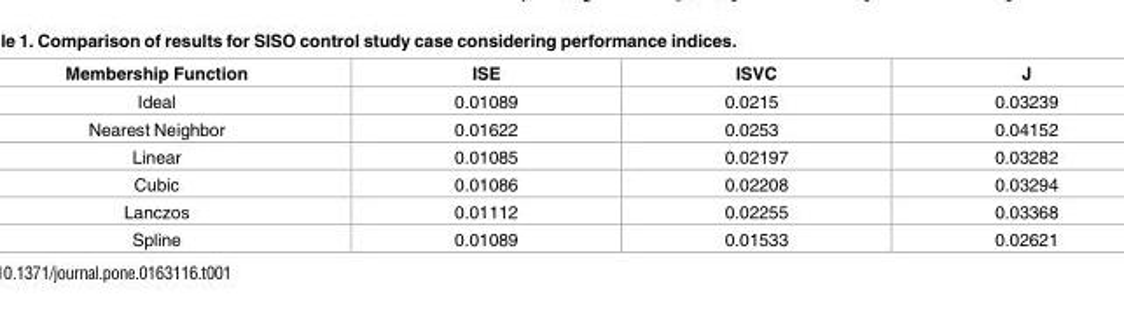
<table><thead><tr><td>Membership Function</td><td>ISE</td><td>ISVC</td><td>J</td></tr></thead><tbody><tr><td>Ideal</td><td>0.01089</td><td>0.0215</td><td>0.03239</td></tr><tr><td>Nearest Neighbor</td><td>0.01622</td><td>0.0253</td><td>0.04152</td></tr><tr><td>Linear</td><td>0.01085</td><td>0.02197</td><td>0.03282</td></tr><tr><td>Cubic</td><td>0.01086</td><td>0.02208</td><td>0.03294</td></tr><tr><td>Lanczos</td><td>0.01112</td><td>0.02255</td><td>0.03368</td></tr><tr><td>Spline</td><td>0.01089</td><td>0.01533</td><td>0.02621</td></tr></tbody></table>